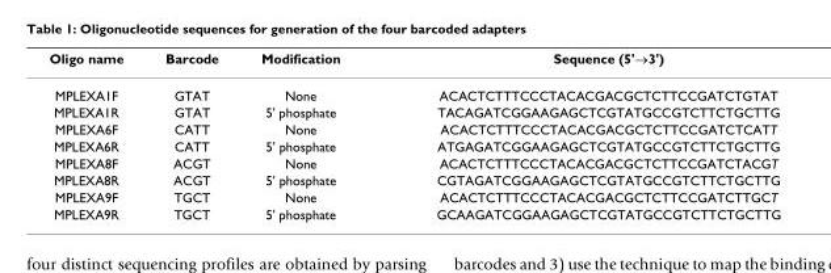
<table><thead><tr><td>Oligo name</td><td>Barcode</td><td>Modification</td><td>Sequence (5&#x27;→3&#x27;)</td></tr></thead><tbody><tr><td>MPLEXA1F</td><td>GTAT</td><td>None</td><td>ACACTCTTTCCCTACACGACGCTCTTCCGATCTGTAT</td></tr><tr><td>MPLEXA1R</td><td>GTAT</td><td>5&#x27; phosphate</td><td>TACAGATCGGAAGAGCTCGTATGCCGTCTTCTGCTTG</td></tr><tr><td>MPLEXA6F</td><td>CATT</td><td>None</td><td>ACACTCTTTCCCTACACGACGCTCTTCCGATCTCATT</td></tr><tr><td>MPLEXA6R</td><td>CATT</td><td>5&#x27; phosphate</td><td>ATGAGATCGGAAGAGCTCGTATGCCGTCTTCTGCTTG</td></tr><tr><td>MPLEXA8F</td><td>ACGT</td><td>None</td><td>ACACTCTTTCCCTACACGACGCTCTTCCGATCTACGT</td></tr><tr><td>MPLEXA8R</td><td>ACGT</td><td>5&#x27; phosphate</td><td>CGTAGATCGGAAGAGCTCGTATGCCGTCTTCTGCTTG</td></tr><tr><td>MPLEXA9F</td><td>TGCT</td><td>None</td><td>ACACTCTTTCCCTACACGACGCTCTTCCGATCTTGCT</td></tr><tr><td>MPLEXA9R</td><td>TGCT</td><td>5&#x27; phosphate</td><td>GCAAGATCGGAAGAGCTCGTATGCCGTCTTCTGCTTG</td></tr></tbody></table>